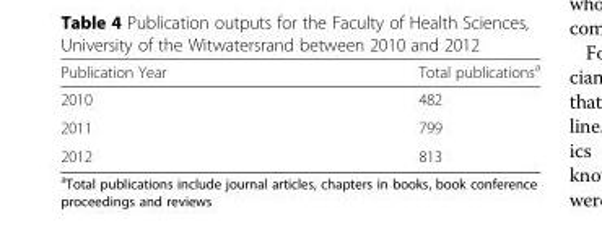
<table><thead><tr><td>Publication Year</td><td>Total publications<sup>a</sup></td></tr></thead><tbody><tr><td>2010</td><td>482</td></tr><tr><td>2011</td><td>799</td></tr><tr><td>2012</td><td>813</td></tr></tbody></table>